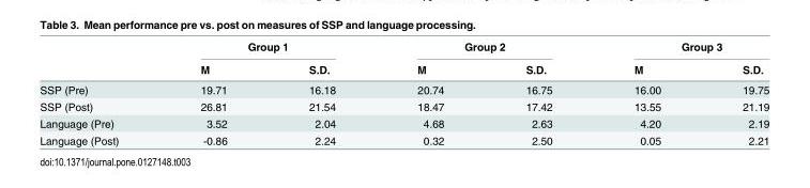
<table><thead><tr><td rowspan="2"></td><td colspan="2">Group 1</td><td colspan="2">Group 2</td><td colspan="2">Group 3</td></tr><tr><td>M</td><td>S.D.</td><td>M</td><td>S.D.</td><td>M</td><td>S.D.</td></tr></thead><tbody><tr><td>SSP (Pre)</td><td>19.71</td><td>16.18</td><td>20.74</td><td>16.75</td><td>16.00</td><td>19.75</td></tr><tr><td>SSP (Post)</td><td>26.81</td><td>21.54</td><td>18.47</td><td>17.42</td><td>13.55</td><td>21.19</td></tr><tr><td>Language (Pre)</td><td>3.52</td><td>2.04</td><td>4.68</td><td>2.63</td><td>4.20</td><td>2.19</td></tr><tr><td>Language (Post)</td><td>-0.86</td><td>2.24</td><td>0.32</td><td>2.50</td><td>0.05</td><td>2.21</td></tr></tbody></table>